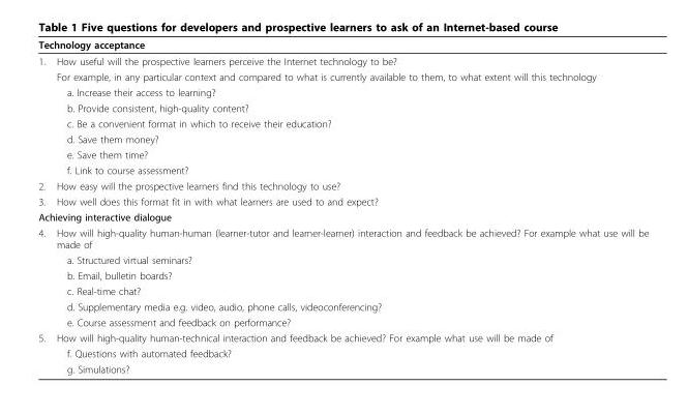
<table><thead><tr><td colspan="2">Technology acceptance</td></tr><tr><td>1.</td><td>How useful will the prospective learners perceive the Internet technology to be?</td></tr></thead><tbody><tr><td></td><td>For example, in any particular context and compared to what is currently available to them, to what extent will this technology</td></tr><tr><td></td><td>a. Increase their access to learning?</td></tr><tr><td></td><td>b. Provide consistent, high-quality content?</td></tr><tr><td></td><td>c. Be a convenient format in which to receive their education?</td></tr><tr><td></td><td>d. Save them money?</td></tr><tr><td></td><td>e. Save them time?</td></tr><tr><td></td><td>f. Link to course assessment?</td></tr><tr><td>2.</td><td>How easy will the prospective learners find this technology to use?</td></tr><tr><td>3.</td><td>How well does this format fit in with what learners are used to and expect?</td></tr><tr><td colspan="2">Achieving interactive dialogue</td></tr><tr><td rowspan="6">4.</td><td>How will high-quality human-human (learner-tutor and learner-learner) interaction and feedback be achieved? For example what use will be made of</td></tr><tr><td>a. Structured virtual seminars?</td></tr><tr><td>b. Email, bulletin boards?</td></tr><tr><td>c. Real-time chat?</td></tr><tr><td>d. Supplementary media e.g. video, audio, phone calls, videoconferencing?</td></tr><tr><td>e. Course assessment and feedback on performance?</td></tr><tr><td rowspan="3">5.</td><td>How will high-quality human-technical interaction and feedback be achieved? For example what use will be made of</td></tr><tr><td>f. Questions with automated feedback?</td></tr><tr><td>g. Simulations?</td></tr></tbody></table>